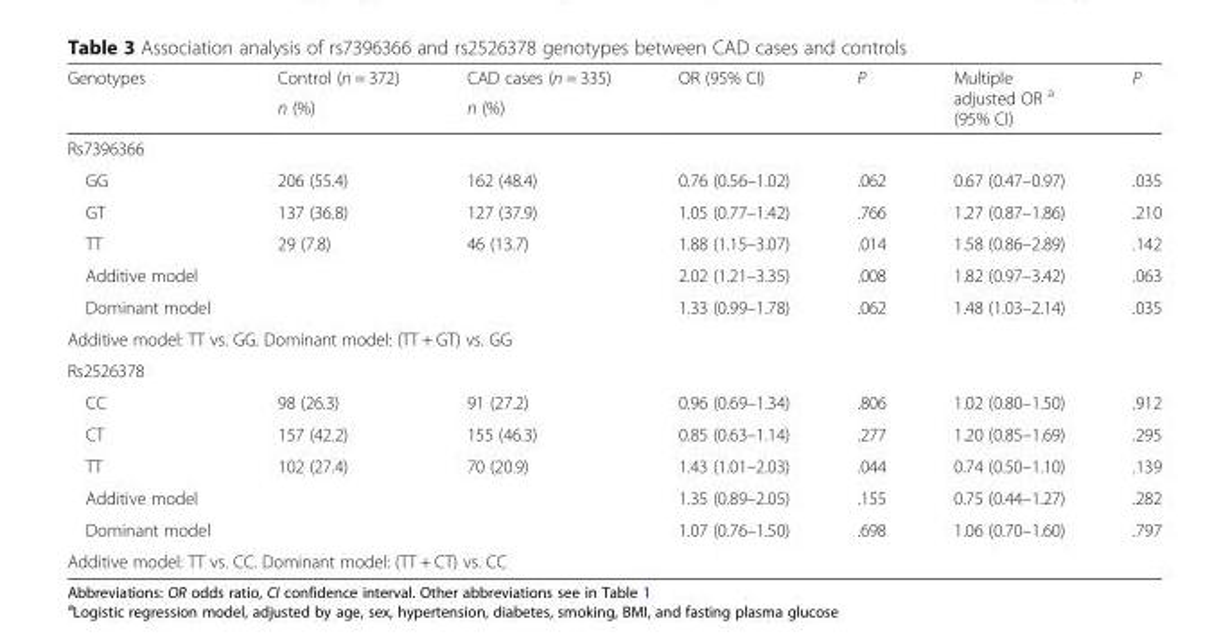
<table><thead><tr><td rowspan="2">Genotypes</td><td rowspan="2">Control (n = 372) n (%)</td><td rowspan="2">CAD cases (n = 335) n (%)</td><td rowspan="2">OR (95% CI)</td><td rowspan="2">P</td><td rowspan="2">Multiple adjusted OR <sup>a</sup> (95% CI)</td><td rowspan="2">P</td></tr><tr></tr></thead><tbody><tr><td colspan="7">Rs7396366</td></tr><tr><td>GG</td><td>206 (55.4)</td><td>162 (48.4)</td><td>0.76 (0.56–1.02)</td><td>.062</td><td>0.67 (0.47–0.97)</td><td>.035</td></tr><tr><td>GT</td><td>137 (36.8)</td><td>127 (37.9)</td><td>1.05 (0.77–1.42)</td><td>.766</td><td>1.27 (0.87–1.86)</td><td>.210</td></tr><tr><td>TT</td><td>29 (7.8)</td><td>46 (13.7)</td><td>1.88 (1.15–3.07)</td><td>.014</td><td>1.58 (0.86–2.89)</td><td>.142</td></tr><tr><td>Additive model</td><td></td><td></td><td>2.02 (1.21–3.35)</td><td>.008</td><td>1.82 (0.97–3.42)</td><td>.063</td></tr><tr><td>Dominant model</td><td></td><td></td><td>1.33 (0.99–1.78)</td><td>.062</td><td>1.48 (1.03–2.14)</td><td>.035</td></tr><tr><td colspan="7">Additive model: TT vs. GG. Dominant model: (TT + GT) vs. GG</td></tr><tr><td colspan="7">Rs2526378</td></tr><tr><td>CC</td><td>98 (26.3)</td><td>91 (27.2)</td><td>0.96 (0.69–1.34)</td><td>.806</td><td>1.02 (0.80–1.50)</td><td>.912</td></tr><tr><td>CT</td><td>157 (42.2)</td><td>155 (46.3)</td><td>0.85 (0.63–1.14)</td><td>.277</td><td>1.20 (0.85–1.69)</td><td>.295</td></tr><tr><td>TT</td><td>102 (27.4)</td><td>70 (20.9)</td><td>1.43 (1.01–2.03)</td><td>.044</td><td>0.74 (0.50–1.10)</td><td>.139</td></tr><tr><td>Additive model</td><td></td><td></td><td>1.35 (0.89–2.05)</td><td>.155</td><td>0.75 (0.44–1.27)</td><td>.282</td></tr><tr><td>Dominant model</td><td></td><td></td><td>1.07 (0.76–1.50)</td><td>.698</td><td>1.06 (0.70–1.60)</td><td>.797</td></tr><tr><td colspan="7">Additive model: TT vs. CC. Dominant model: (TT + CT) vs. CC</td></tr></tbody></table>